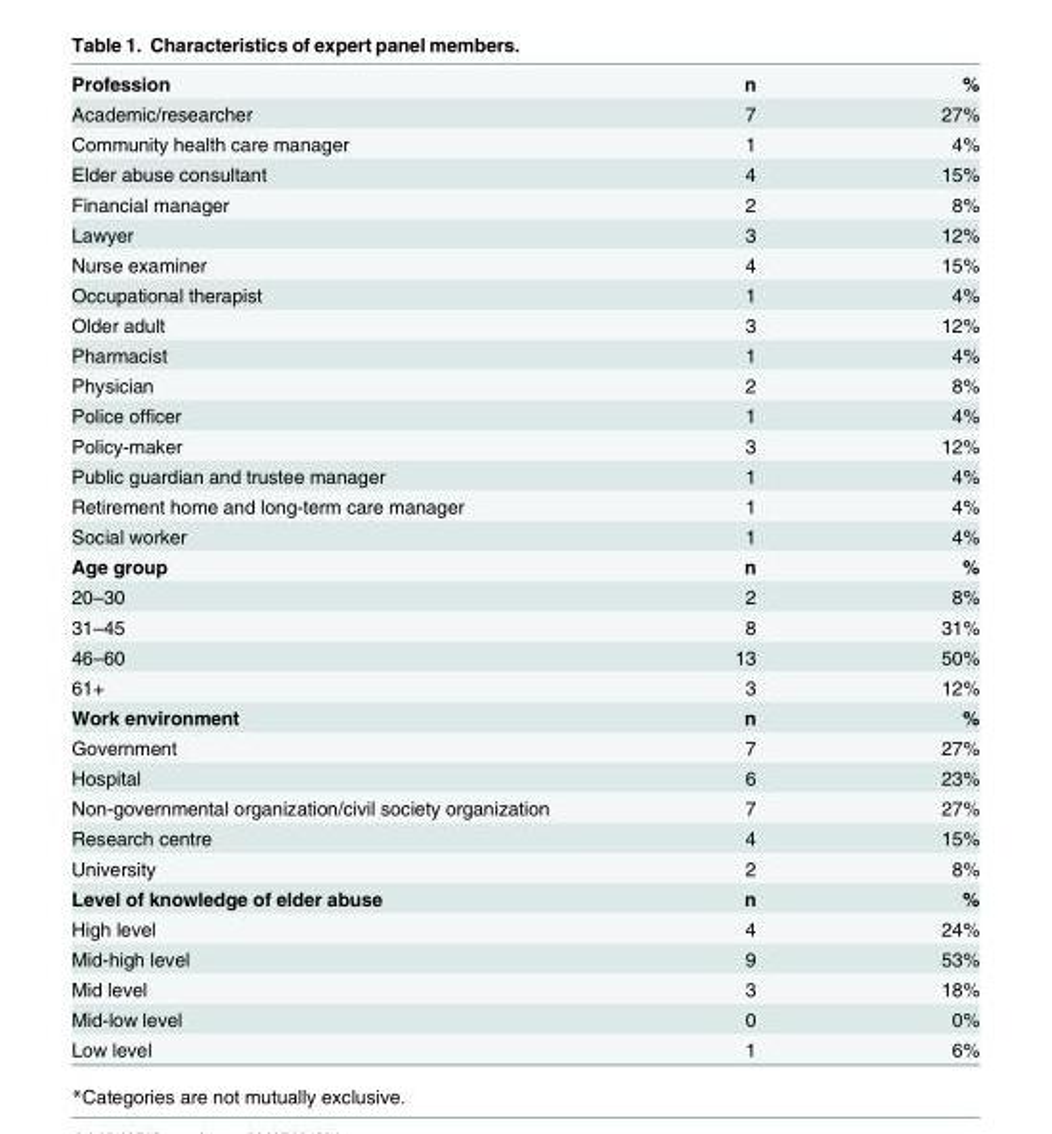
<table><tbody><tr><td>Profession</td><td>n</td><td>%</td></tr><tr><td>Academic/researcher</td><td>7</td><td>27%</td></tr><tr><td>Community health care manager</td><td>1</td><td>4%</td></tr><tr><td>Elder abuse consultant</td><td>4</td><td>15%</td></tr><tr><td>Financial manager</td><td>2</td><td>8%</td></tr><tr><td>Lawyer</td><td>3</td><td>12%</td></tr><tr><td>Nurse examiner</td><td>4</td><td>15%</td></tr><tr><td>Occupational therapist</td><td>1</td><td>4%</td></tr><tr><td>Older adult</td><td>3</td><td>12%</td></tr><tr><td>Pharmacist</td><td>1</td><td>4%</td></tr><tr><td>Physician</td><td>2</td><td>8%</td></tr><tr><td>Police officer</td><td>1</td><td>4%</td></tr><tr><td>Policy-maker</td><td>3</td><td>12%</td></tr><tr><td>Public guardian and trustee manager</td><td>1</td><td>4%</td></tr><tr><td>Retirement home and long-term care manager</td><td>1</td><td>4%</td></tr><tr><td>Social worker</td><td>1</td><td>4%</td></tr><tr><td>Age group</td><td>n</td><td>%</td></tr><tr><td>20–30</td><td>2</td><td>8%</td></tr><tr><td>31–45</td><td>8</td><td>31%</td></tr><tr><td>46–60</td><td>13</td><td>50%</td></tr><tr><td>61+</td><td>3</td><td>12%</td></tr><tr><td>Work environment</td><td>n</td><td>%</td></tr><tr><td>Government</td><td>7</td><td>27%</td></tr><tr><td>Hospital</td><td>6</td><td>23%</td></tr><tr><td>Non-governmental organization/civil society organization</td><td>7</td><td>27%</td></tr><tr><td>Research centre</td><td>4</td><td>15%</td></tr><tr><td>University</td><td>2</td><td>8%</td></tr><tr><td>Level of knowledge of elder abuse</td><td>n</td><td>%</td></tr><tr><td>High level</td><td>4</td><td>24%</td></tr><tr><td>Mid-high level</td><td>9</td><td>53%</td></tr><tr><td>Mid level</td><td>3</td><td>18%</td></tr><tr><td>Mid-low level</td><td>0</td><td>0%</td></tr><tr><td>Low level</td><td>1</td><td>6%</td></tr></tbody></table>